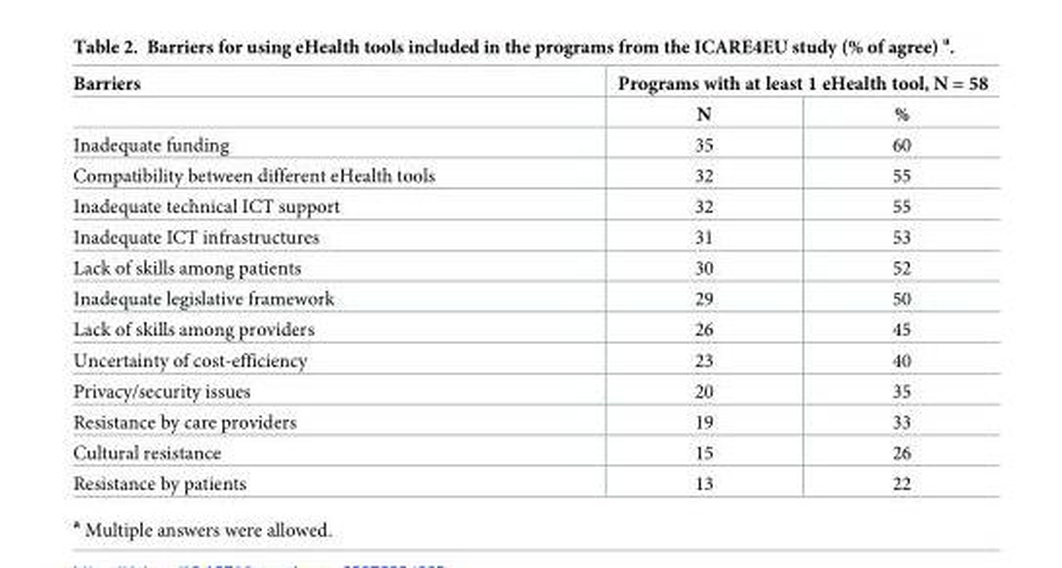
<table><thead><tr><td rowspan="2">Barriers</td><td colspan="2">Programs with at least 1 eHealth tool, N = 58</td></tr><tr><td>N</td><td>%</td></tr></thead><tbody><tr><td>Inadequate funding</td><td>35</td><td>60</td></tr><tr><td>Compatibility between different eHealth tools</td><td>32</td><td>55</td></tr><tr><td>Inadequate technical ICT support</td><td>32</td><td>55</td></tr><tr><td>Inadequate ICT infrastructures</td><td>31</td><td>53</td></tr><tr><td>Lack of skills among patients</td><td>30</td><td>52</td></tr><tr><td>Inadequate legislative framework</td><td>29</td><td>50</td></tr><tr><td>Lack of skills among providers</td><td>26</td><td>45</td></tr><tr><td>Uncertainty of cost-efficiency</td><td>23</td><td>40</td></tr><tr><td>Privacy/security issues</td><td>20</td><td>35</td></tr><tr><td>Resistance by care providers</td><td>19</td><td>33</td></tr><tr><td>Cultural resistance</td><td>15</td><td>26</td></tr><tr><td>Resistance by patients</td><td>13</td><td>22</td></tr></tbody></table>